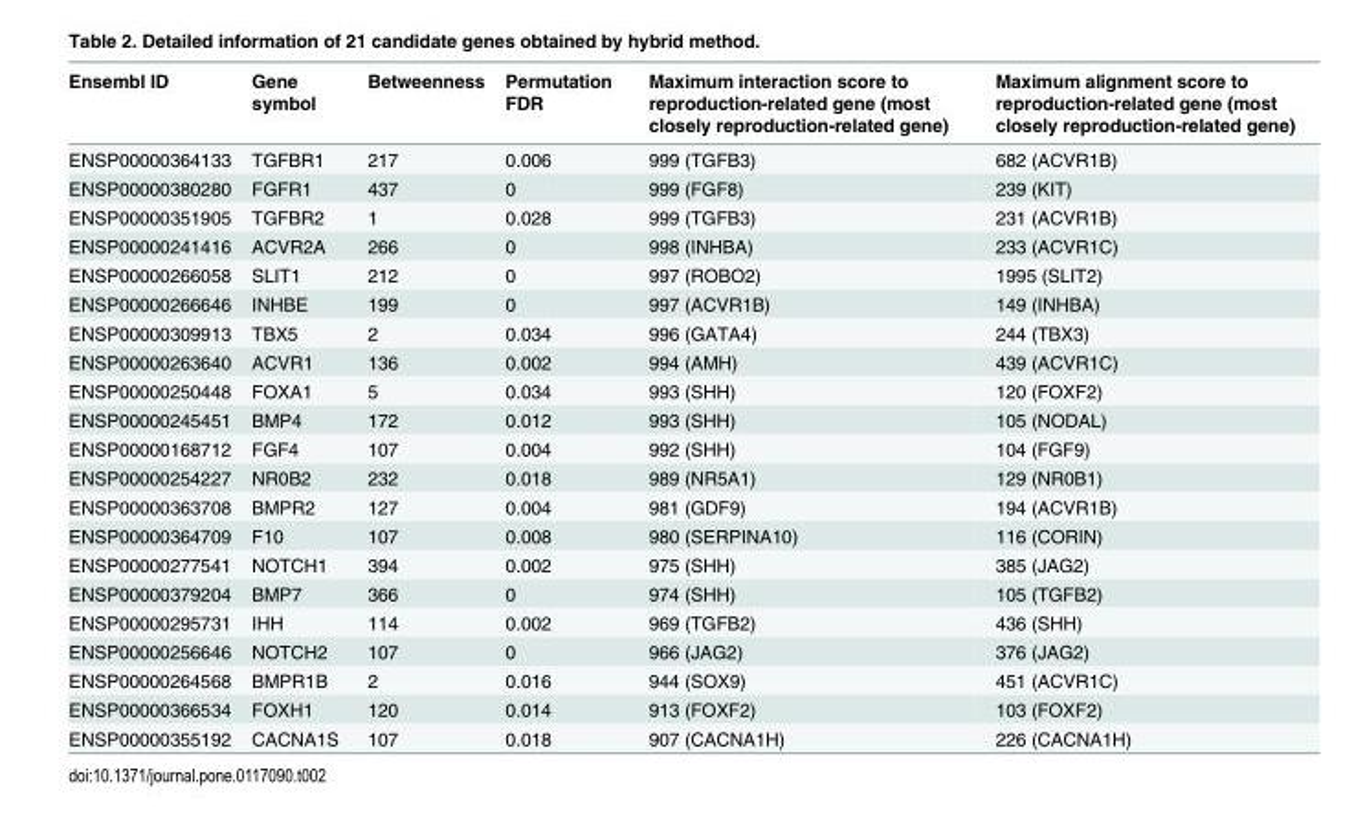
<table><thead><tr><td>Ensembl ID</td><td>Gene symbol</td><td>Betweenness</td><td>Permutation FDR</td><td>Maximum interaction score to reproduction-related gene (most closely reproduction-related gene)</td><td>Maximum alignment score to reproduction-related gene (most closely reproduction-related gene)</td></tr></thead><tbody><tr><td>ENSP00000364133</td><td>TGFBR1</td><td>217</td><td>0.006</td><td>999 (TGFB3)</td><td>682 (ACVR1B)</td></tr><tr><td>ENSP00000380280</td><td>FGFR1</td><td>437</td><td>0</td><td>999 (FGF8)</td><td>239 (KIT)</td></tr><tr><td>ENSP00000351905</td><td>TGFBR2</td><td>1</td><td>0.028</td><td>999 (TGFB3)</td><td>231 (ACVR1B)</td></tr><tr><td>ENSP00000241416</td><td>ACVR2A</td><td>266</td><td>0</td><td>998 (INHBA)</td><td>233 (ACVR1C)</td></tr><tr><td>ENSP00000266058</td><td>SLIT1</td><td>212</td><td>0</td><td>997 (ROBO2)</td><td>1995 (SLIT2)</td></tr><tr><td>ENSP00000266646</td><td>INHBE</td><td>199</td><td>0</td><td>997 (ACVR1B)</td><td>149 (INHBA)</td></tr><tr><td>ENSP00000309913</td><td>TBX5</td><td>2</td><td>0.034</td><td>996 (GATA4)</td><td>244 (TBX3)</td></tr><tr><td>ENSP00000263640</td><td>ACVR1</td><td>136</td><td>0.002</td><td>994 (AMH)</td><td>439 (ACVR1C)</td></tr><tr><td>ENSP00000250448</td><td>FOXA1</td><td>5</td><td>0.034</td><td>993 (SHH)</td><td>120 (FOXF2)</td></tr><tr><td>ENSP00000245451</td><td>BMP4</td><td>172</td><td>0.012</td><td>993 (SHH)</td><td>105 (NODAL)</td></tr><tr><td>ENSP00000168712</td><td>FGF4</td><td>107</td><td>0.004</td><td>992 (SHH)</td><td>104 (FGF9)</td></tr><tr><td>ENSP00000254227</td><td>NR0B2</td><td>232</td><td>0.018</td><td>989 (NR5A1)</td><td>129 (NR0B1)</td></tr><tr><td>ENSP00000363708</td><td>BMPR2</td><td>127</td><td>0.004</td><td>981 (GDF9)</td><td>194 (ACVR1B)</td></tr><tr><td>ENSP00000364709</td><td>F10</td><td>107</td><td>0.008</td><td>980 (SERPINA10)</td><td>116 (CORIN)</td></tr><tr><td>ENSP00000277541</td><td>NOTCH1</td><td>394</td><td>0.002</td><td>975 (SHH)</td><td>385 (JAG2)</td></tr><tr><td>ENSP00000379204</td><td>BMP7</td><td>366</td><td>0</td><td>974 (SHH)</td><td>105 (TGFB2)</td></tr><tr><td>ENSP00000295731</td><td>IHH</td><td>114</td><td>0.002</td><td>969 (TGFB2)</td><td>436 (SHH)</td></tr><tr><td>ENSP00000256646</td><td>NOTCH2</td><td>107</td><td>0</td><td>966 (JAG2)</td><td>376 (JAG2)</td></tr><tr><td>ENSP00000264568</td><td>BMPR1B</td><td>2</td><td>0.016</td><td>944 (SOX9)</td><td>451 (ACVR1C)</td></tr><tr><td>ENSP00000366534</td><td>FOXH1</td><td>120</td><td>0.014</td><td>913 (FOXF2)</td><td>103 (FOXF2)</td></tr><tr><td>ENSP00000355192</td><td>CACNA1S</td><td>107</td><td>0.018</td><td>907 (CACNA1H)</td><td>226 (CACNA1H)</td></tr></tbody></table>